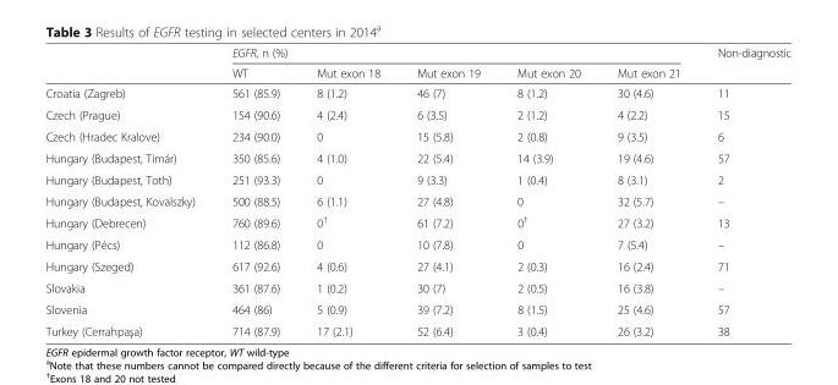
<table><thead><tr><td rowspan="2"></td><td colspan="5">EGFR, n (%)</td><td rowspan="2">Non-diagnostic</td></tr><tr><td>WT</td><td>Mut exon 18</td><td>Mut exon 19</td><td>Mut exon 20</td><td>Mut exon 21</td></tr></thead><tbody><tr><td>Croatia (Zagreb)</td><td>561 (85.9)</td><td>8 (1.2)</td><td>46 (7)</td><td>8 (1.2)</td><td>30 (4.6)</td><td>11</td></tr><tr><td>Czech (Prague)</td><td>154 (90.6)</td><td>4 (2.4)</td><td>6 (3.5)</td><td>2 (1.2)</td><td>4 (2.2)</td><td>15</td></tr><tr><td>Czech (Hradec Kralove)</td><td>234 (90.0)</td><td>0</td><td>15 (5.8)</td><td>2 (0.8)</td><td>9 (3.5)</td><td>6</td></tr><tr><td>Hungary (Budapest, Timár)</td><td>350 (85.6)</td><td>4 (1.0)</td><td>22 (5.4)</td><td>14 (3.9)</td><td>19 (4.6)</td><td>57</td></tr><tr><td>Hungary (Budapest, Toth)</td><td>251 (93.3)</td><td>0</td><td>9 (3.3)</td><td>1 (0.4)</td><td>8 (3.1)</td><td>2</td></tr><tr><td>Hungary (Budapest, Kovalszky)</td><td>500 (88.5)</td><td>6 (1.1)</td><td>27 (4.8)</td><td>0</td><td>32 (5.7)</td><td>–</td></tr><tr><td>Hungary (Debrecen)</td><td>760 (89.6)</td><td>0<sup>†</sup></td><td>61 (7.2)</td><td>0<sup>†</sup></td><td>27 (3.2)</td><td>13</td></tr><tr><td>Hungary (Pécs)</td><td>112 (86.8)</td><td>0</td><td>10 (7.8)</td><td>0</td><td>7 (5.4)</td><td>–</td></tr><tr><td>Hungary (Szeged)</td><td>617 (92.6)</td><td>4 (0.6)</td><td>27 (4.1)</td><td>2 (0.3)</td><td>16 (2.4)</td><td>71</td></tr><tr><td>Slovakia</td><td>361 (87.6)</td><td>1 (0.2)</td><td>30 (7)</td><td>2 (0.5)</td><td>16 (3.8)</td><td>–</td></tr><tr><td>Slovenia</td><td>464 (86)</td><td>5 (0.9)</td><td>39 (7.2)</td><td>8 (1.5)</td><td>25 (4.6)</td><td>57</td></tr><tr><td>Turkey (Cerrahpaşa)</td><td>714 (87.9)</td><td>17 (2.1)</td><td>52 (6.4)</td><td>3 (0.4)</td><td>26 (3.2)</td><td>38</td></tr></tbody></table>